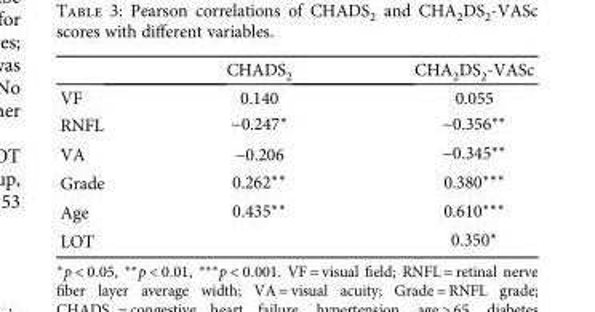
<table><thead><tr><td></td><td>CHADS<sub>2</sub></td><td>CHA<sub>2</sub>DS<sub>2</sub>-VASc</td></tr></thead><tbody><tr><td>VF</td><td>0.140</td><td>0.055</td></tr><tr><td>RNFL</td><td>−0.247∗</td><td>−0.356∗∗</td></tr><tr><td>VA</td><td>−0.206</td><td>−0.345∗∗</td></tr><tr><td>Grade</td><td>0.262∗∗</td><td>0.380∗∗∗</td></tr><tr><td>Age</td><td>0.435∗∗</td><td>0.610∗∗∗</td></tr><tr><td>LOT</td><td></td><td>0.350∗</td></tr></tbody></table>